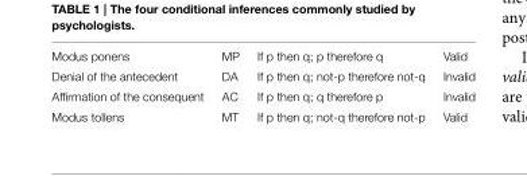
<table><tbody><tr><td>Modus ponens</td><td>MP</td><td>If p then q; p therefore q</td><td>Valid</td></tr><tr><td>Denial of the antecedent</td><td>DA</td><td>If p then q; not-p therefore not-q</td><td>Invalid</td></tr><tr><td>Affirmation of the consequent</td><td>AC</td><td>If p then q; q therefore p</td><td>Invalid</td></tr><tr><td>Modus tollens</td><td>MT</td><td>If p then q; not-q therefore not-p</td><td>Valid</td></tr></tbody></table>